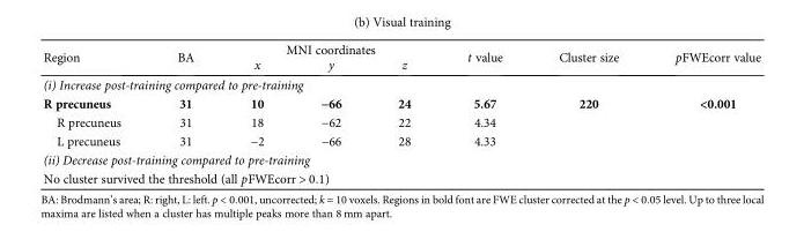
<table><thead><tr><td rowspan="2">Region</td><td rowspan="2">BA</td><td colspan="3">MNI coordinates</td><td rowspan="2">t value</td><td rowspan="2">Cluster size</td><td rowspan="2">pFWEcorr value</td></tr><tr><td>x</td><td>y</td><td>z</td></tr></thead><tbody><tr><td colspan="8">(i) Increase post-training compared to pre-training</td></tr><tr><td>R precuneus</td><td>31</td><td>10</td><td>−66</td><td>24</td><td>5.67</td><td>220</td><td>&lt;0.001</td></tr><tr><td>R precuneus</td><td>31</td><td>18</td><td>−62</td><td>22</td><td>4.34</td><td></td><td></td></tr><tr><td>L precuneus</td><td>31</td><td>−2</td><td>−66</td><td>28</td><td>4.33</td><td></td><td></td></tr><tr><td colspan="8">(ii) Decrease post-training compared to pre-training</td></tr><tr><td colspan="8">No cluster survived the threshold (all pFWEcorr &gt; 0 1)</td></tr></tbody></table>